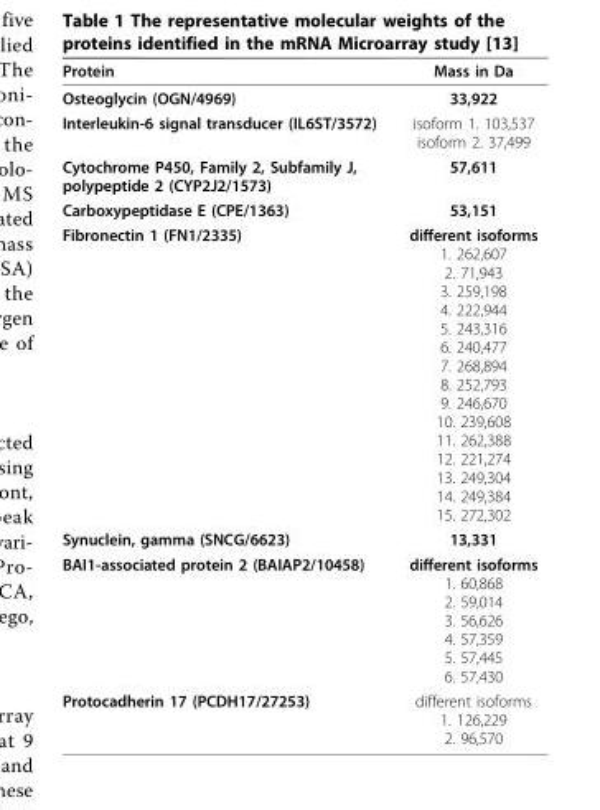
<table><thead><tr><td>Protein</td><td>Mass in Da</td></tr></thead><tbody><tr><td>Osteoglycin (OGN/4969)</td><td>33,922</td></tr><tr><td>Interleukin-6 signal transducer (IL6ST/3572)</td><td>isoform 1. 103,537 isoform 2. 37,499</td></tr><tr><td>Cytochrome P450, Family 2, Subfamily J, polypeptide 2 (CYP2J2/1573)</td><td>57,611</td></tr><tr><td>Carboxypeptidase E (CPE/1363)</td><td>53,151</td></tr><tr><td>Fibronectin 1 (FN1/2335)</td><td>different isoforms 1. 262,607 2. 71,943 3. 259,198 4. 222,944 5. 243,316 6. 240,477 7. 268,894 8. 252,793 9. 246,670 10. 239,608 11. 262,388 12. 221,274 13. 249,304 14. 249,384 15. 272,302</td></tr><tr><td>Synuclein, gamma (SNCG/6623)</td><td>13,331</td></tr><tr><td>BAI1-associated protein 2 (BAIAP2/10458)</td><td>different isoforms 1. 60,868 2. 59,014 3. 56,626 4. 57,359 5. 57,445 6. 57,430</td></tr><tr><td>Protocadherin 17 (PCDH17/27253)</td><td>different isoforms 1. 126,229 2. 96,570</td></tr></tbody></table>